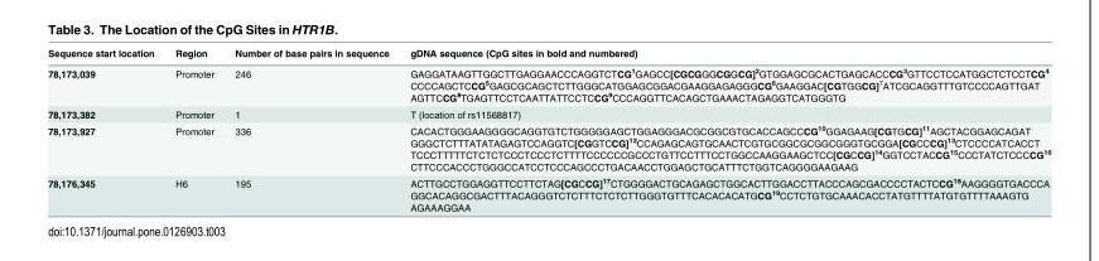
<table><thead><tr><td>Sequence start location</td><td>Region</td><td>Number of base pairs in sequence</td><td>gDNA sequence (CpG sites in bold and numbered)</td></tr></thead><tbody><tr><td>78,173,039</td><td>Promoter</td><td>246</td><td>GAGGATAAGTTGGCTTGAGGAACCCAGGTCTCG1GAGCC[CGCGGGCGGCG]2GTGGAGCGCACTGAGCACCCG3GTTCCTCCATGGCTCTCCTCG4 CCCCAGCTCCG5GAGCGCAGCTCTTGGGCATGGAGCGGACGAAGGAGAGGGCG6GAAGGAC[CGTGGCG]7ATCGCAGGTTTGTCCCCAGTTGAT AGTTCCG8TGAGTTCCTCAATTATTCCTCCG9CCCAGGTTCACAGCTGAAACTAGAGGTCATGGGTG</td></tr><tr><td>78,173,382</td><td>Promoter</td><td>1</td><td>T (location of rs11568817)</td></tr><tr><td>78,173,927</td><td>Promoter</td><td>336</td><td>CACACTGGGAAGGGGCAGGTGTCTGGGGGAGCTGGAGGGACGCGGCGTGCACCAGCCCG10GGAGAAG[CGTGCG]11AGCTACGGAGCAGAT GGGCTCTTTATATAGAGTCCAGGTC[CGGTCCG]12CCAGAGCAGTGCAACTCGTGCGGCGCGGCGGGTGCGGA[CGCCCG]13CTCCCCATCACCT TCCCTTTTTCTCTCTCCCTCCCTCTTTTCCCCCCGCCCTGTTCCTTTCCTGGCCAAGGAAGCTCC[CGCCG]14GGTCCTACCG15CCCTATCTCCCCG16 CTTCCCACCCTGGGCCATCCTCCCAGCCCTGACAACCTGGAGCTGCATTTCTGGTCAGGGGAAGAAG</td></tr><tr><td>78,176,345</td><td>H6</td><td>195</td><td>ACTTGCCTGGAGGTTCCTTCTAG[CGCCG]<sup>17</sup>CTGGGGACTGCAGAGCTGGCACTTGGACCTTACCCAGCGACCCCTACTCCG<sup>18</sup>AAGGGGTGACCCA GGCACAGGCGACTTTACAGGGTCTCTTTCTCTCTTGGGTGTTTCACACACATGCG<sup>19</sup>CCTCTGTGCAAACACCTATGTTTTATGTGTTTTAAAGTG AGAAAGGAA</td></tr></tbody></table>